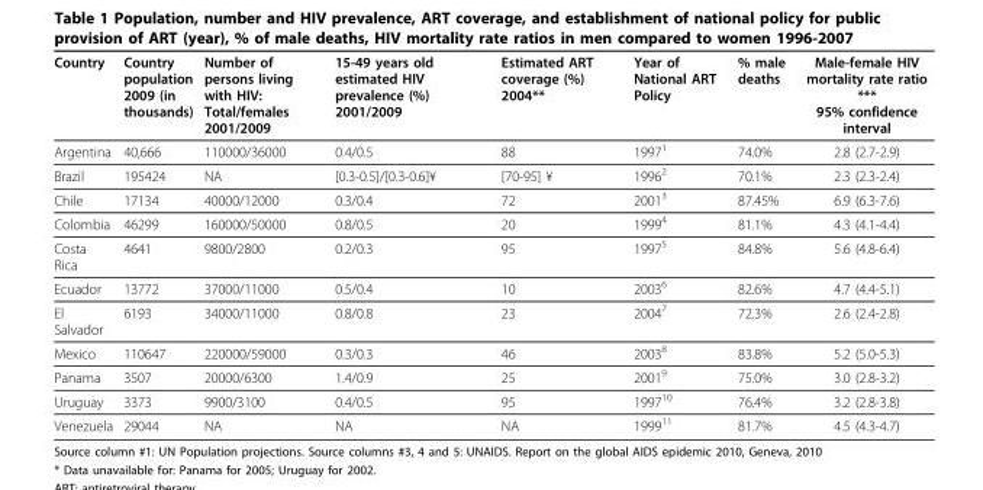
<table><thead><tr><td>Country</td><td>Country population 2009 (in thousands)</td><td>Number of persons living with HIV: Total/females 2001/2009</td><td>15-49 years old estimated HIV prevalence (%) 2001/2009</td><td>Estimated ART coverage (%) 2004**</td><td>Year of National ART Policy</td><td>% male deaths</td><td>Male-female HIV mortality rate ratio *** 95% confidence interval</td></tr></thead><tbody><tr><td>Argentina</td><td>40,666</td><td>110000/36000</td><td>0.4/0.5</td><td>88</td><td>1997<sup>1</sup></td><td>74.0%</td><td>2.8 (2.7-2.9)</td></tr><tr><td>Brazil</td><td>195424</td><td>NA</td><td>[0.3-0.5]/[0.3-0.6]¥</td><td>[70-95] ¥</td><td>1996<sup>2</sup></td><td>70.1%</td><td>2.3 (2.3-2.4)</td></tr><tr><td>Chile</td><td>17134</td><td>40000/12000</td><td>0.3/0.4</td><td>72</td><td>2001<sup>3</sup></td><td>87.45%</td><td>6.9 (6.3-7.6)</td></tr><tr><td>Colombia</td><td>46299</td><td>160000/50000</td><td>0.8/0.5</td><td>20</td><td>1999<sup>4</sup></td><td>81.1%</td><td>4.3 (4.1-4.4)</td></tr><tr><td>Costa Rica</td><td>4641</td><td>9800/2800</td><td>0.2/0.3</td><td>95</td><td>1997<sup>5</sup></td><td>84.8%</td><td>5.6 (4.8-6.4)</td></tr><tr><td>Ecuador</td><td>13772</td><td>37000/11000</td><td>0.5/0.4</td><td>10</td><td>2003<sup>6</sup></td><td>82.6%</td><td>4.7 (4.4-5.1)</td></tr><tr><td>El Salvador</td><td>6193</td><td>34000/11000</td><td>0.8/0.8</td><td>23</td><td>2004<sup>7</sup></td><td>72.3%</td><td>2.6 (2.4-2.8)</td></tr><tr><td>Mexico</td><td>110647</td><td>220000/59000</td><td>0.3/0.3</td><td>46</td><td>2003<sup>8</sup></td><td>83.8%</td><td>5.2 (5.0-5.3)</td></tr><tr><td>Panama</td><td>3507</td><td>20000/6300</td><td>1.4/0.9</td><td>25</td><td>2001<sup>9</sup></td><td>75.0%</td><td>3.0 (2.8-3.2)</td></tr><tr><td>Uruguay</td><td>3373</td><td>9900/3100</td><td>0.4/0.5</td><td>95</td><td>1997<sup>10</sup></td><td>76.4%</td><td>3.2 (2.8-3.8)</td></tr><tr><td>Venezuela</td><td>29044</td><td>NA</td><td>NA</td><td>NA</td><td>1999<sup>11</sup></td><td>81.7%</td><td>4.5 (4.3-4.7)</td></tr></tbody></table>